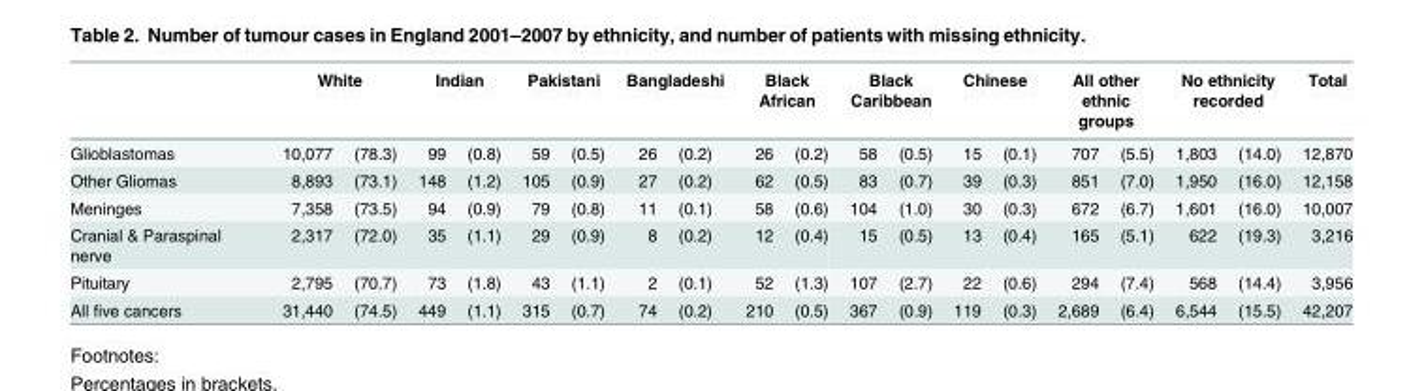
<table><thead><tr><td rowspan="2">Glioblastomas</td><td colspan="2">White</td><td colspan="2">Indian</td><td colspan="2">Pakistani</td><td colspan="2">Bangladeshi</td><td colspan="2">Black African</td><td colspan="2">Black Caribbean</td><td colspan="2">Chinese</td><td colspan="2">All other ethnic groups</td><td colspan="2">No ethnicity recorded</td><td rowspan="2">Total 12,870</td></tr><tr><td>10,077</td><td>(78.3)</td><td>99</td><td>(0.8)</td><td>59</td><td>(0.5)</td><td>26</td><td>(0.2)</td><td>26</td><td>(0.2)</td><td>58</td><td>(0.5)</td><td>15</td><td>(0.1)</td><td>707</td><td>(5.5)</td><td>1,803</td><td>(14.0)</td></tr></thead><tbody><tr><td>Other Gliomas</td><td>8,893</td><td>(73.1)</td><td>148</td><td>(1.2)</td><td>105</td><td>(0.9)</td><td>27</td><td>(0.2)</td><td>62</td><td>(0.5)</td><td>83</td><td>(0.7)</td><td>39</td><td>(0.3)</td><td>851</td><td>(7.0)</td><td>1,950</td><td>(16.0)</td><td>12,158</td></tr><tr><td>Meninges</td><td>7,358</td><td>(73.5)</td><td>94</td><td>(0.9)</td><td>79</td><td>(0.8)</td><td>11</td><td>(0.1)</td><td>58</td><td>(0.6)</td><td>104</td><td>(1.0)</td><td>30</td><td>(0.3)</td><td>672</td><td>(6.7)</td><td>1,601</td><td>(16.0)</td><td>10,007</td></tr><tr><td>Cranial &amp; Paraspinal nerve</td><td>2,317</td><td>(72.0)</td><td>35</td><td>(1.1)</td><td>29</td><td>(0.9)</td><td>8</td><td>(0.2)</td><td>12</td><td>(0.4)</td><td>15</td><td>(0.5)</td><td>13</td><td>(0.4)</td><td>165</td><td>(5.1)</td><td>622</td><td>(19.3)</td><td>3,216</td></tr><tr><td>Pituitary</td><td>2,795</td><td>(70.7)</td><td>73</td><td>(1.8)</td><td>43</td><td>(1.1)</td><td>2</td><td>(0.1)</td><td>52</td><td>(1.3)</td><td>107</td><td>(2.7)</td><td>22</td><td>(0.6)</td><td>294</td><td>(7.4)</td><td>568</td><td>(14.4)</td><td>3,956</td></tr><tr><td>All five cancers</td><td>31,440</td><td>(74.5)</td><td>449</td><td>(1.1)</td><td>315</td><td>(0.7)</td><td>74</td><td>(0.2)</td><td>210</td><td>(0.5)</td><td>367</td><td>(0.9)</td><td>119</td><td>(0.3)</td><td>2,689</td><td>(6.4)</td><td>6,544</td><td>(15.5)</td><td>42,207</td></tr></tbody></table>